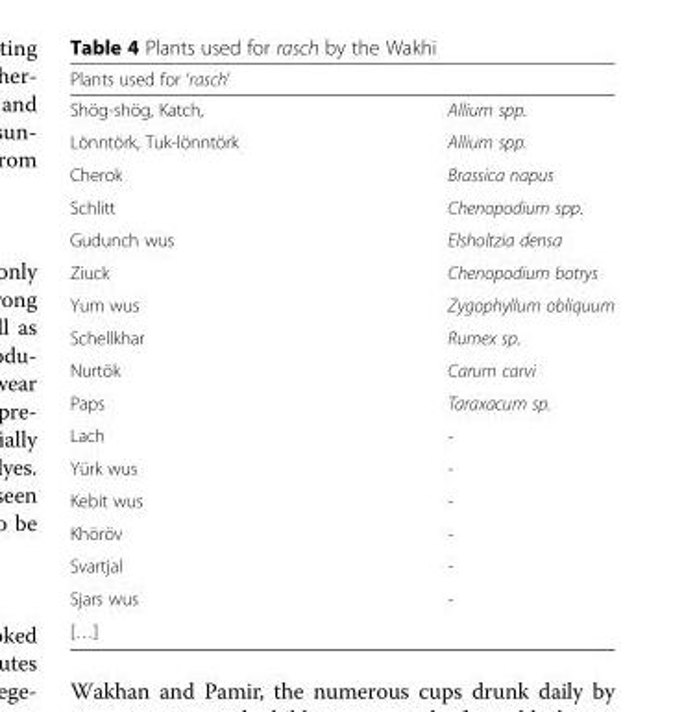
<table><thead><tr><td>Plants used for ‘rasch’</td><td></td></tr></thead><tbody><tr><td>Shög-shög, Katch,</td><td>Allium spp.</td></tr><tr><td>Lönntörk, Tuk-lönntörk</td><td>Allium spp.</td></tr><tr><td>Cherok</td><td>Brassica napus</td></tr><tr><td>Schlitt</td><td>Chenopodium spp.</td></tr><tr><td>Gudunch wus</td><td>Elsholtzia densa</td></tr><tr><td>Ziuck</td><td>Chenopodium botrys</td></tr><tr><td>Yum wus</td><td>Zygophyllum obliquum</td></tr><tr><td>Schellkhar</td><td>Rumex sp.</td></tr><tr><td>Nurtök</td><td>Carum carvi</td></tr><tr><td>Paps</td><td>Taraxacum sp.</td></tr><tr><td>Lach</td><td>-</td></tr><tr><td>Yürk wus</td><td>-</td></tr><tr><td>Kebit wus</td><td>-</td></tr><tr><td>Khöröv</td><td>-</td></tr><tr><td>Svartjal</td><td>-</td></tr><tr><td>Sjars wus</td><td>-</td></tr><tr><td>[…]</td><td></td></tr></tbody></table>